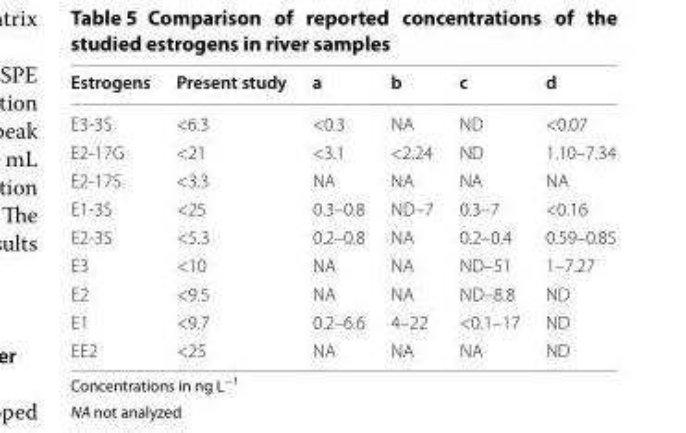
<table><thead><tr><td>Estrogens</td><td>Present study</td><td>a</td><td>b</td><td>c</td><td>d</td></tr></thead><tbody><tr><td>E3-3S</td><td>&lt;6.3</td><td>&lt;0.3</td><td>NA</td><td>ND</td><td>&lt;0.07</td></tr><tr><td>E2-17G</td><td>&lt;21</td><td>&lt;3.1</td><td>&lt;2.24</td><td>ND</td><td>1.10–7.34</td></tr><tr><td>E2-17S</td><td>&lt;3.3</td><td>NA</td><td>NA</td><td>NA</td><td>NA</td></tr><tr><td>E1-3S</td><td>&lt;25</td><td>0.3–0.8</td><td>ND–7</td><td>0.3–7</td><td>&lt;0.16</td></tr><tr><td>E2-3S</td><td>&lt;5.3</td><td>0.2–0.8</td><td>NA</td><td>0.2–0.4</td><td>0.59–0.85</td></tr><tr><td>E3</td><td>&lt;10</td><td>NA</td><td>NA</td><td>ND–51</td><td>1–7.27</td></tr><tr><td>E2</td><td>&lt;9.5</td><td>NA</td><td>NA</td><td>ND–8.8</td><td>ND</td></tr><tr><td>E1</td><td>&lt;9.7</td><td>0.2–6.6</td><td>4–22</td><td>&lt;0.1–17</td><td>ND</td></tr><tr><td>EE2</td><td>&lt;25</td><td>NA</td><td>NA</td><td>NA</td><td>ND</td></tr></tbody></table>